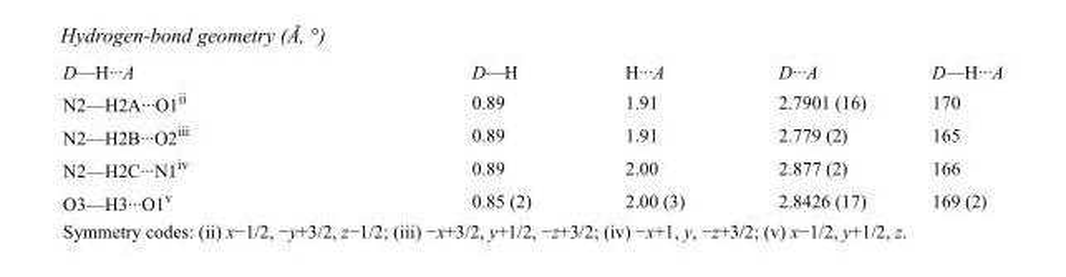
<table><tbody><tr><td>D—H···A</td><td>D—H</td><td>H···A</td><td>D···A</td><td>D—H···A</td></tr><tr><td>N2—H2A···O1<sup>ii</sup></td><td>0.89</td><td>1.91</td><td>2.7901 (16)</td><td>170</td></tr><tr><td>N2—H2B···O2<sup>iii</sup></td><td>0.89</td><td>1.91</td><td>2.779 (2)</td><td>165</td></tr><tr><td>N2—H2C···N1<sup>iv</sup></td><td>0.89</td><td>2.00</td><td>2.877 (2)</td><td>166</td></tr><tr><td>O3—H3···O1<sup>v</sup></td><td>0.85 (2)</td><td>2.00 (3)</td><td>2.8426 (17)</td><td>169 (2)</td></tr></tbody></table>